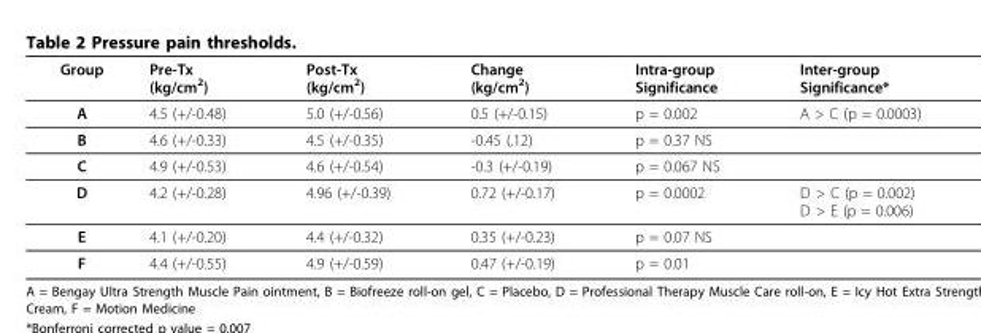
<table><thead><tr><td>Group</td><td>Pre-Tx (kg/cm<sup>2</sup>)</td><td>Post-Tx (kg/cm<sup>2</sup>)</td><td>Change (kg/cm<sup>2</sup>)</td><td>Intra-group Significance</td><td>Inter-group Significance*</td></tr></thead><tbody><tr><td>A</td><td>4.5 (+/-0.48)</td><td>5.0 (+/-0.56)</td><td>0.5 (+/-0.15)</td><td>p = 0.002</td><td>A &gt; C (p = 0.0003)</td></tr><tr><td>B</td><td>4.6 (+/-0.33)</td><td>4.5 (+/-0.35)</td><td>-0.45 (.12)</td><td>p = 0.37 NS</td><td></td></tr><tr><td>C</td><td>4.9 (+/-0.53)</td><td>4.6 (+/-0.54)</td><td>-0.3 (+/-0.19)</td><td>p = 0.067 NS</td><td></td></tr><tr><td>D</td><td>4.2 (+/-0.28)</td><td>4.96 (+/-0.39)</td><td>0.72 (+/-0.17)</td><td>p = 0.0002</td><td>D &gt; C (p = 0.002) D &gt; E (p = 0.006)</td></tr><tr><td>E</td><td>4.1 (+/-0.20)</td><td>4.4 (+/-0.32)</td><td>0.35 (+/-0.23)</td><td>p = 0.07 NS</td><td></td></tr><tr><td>F</td><td>4.4 (+/-0.55)</td><td>4.9 (+/-0.59)</td><td>0.47 (+/-0.19)</td><td>p = 0.01</td><td></td></tr></tbody></table>